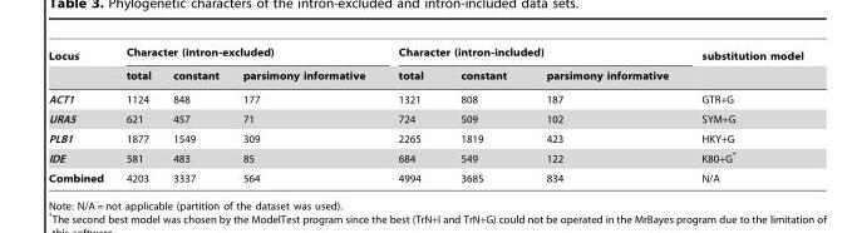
<table><thead><tr><td rowspan="2">Locus</td><td colspan="3">Character (intron-excluded)</td><td colspan="3">Character (intron-included)</td><td rowspan="2">substitution model</td></tr><tr><td>total</td><td>constant</td><td>parsimony informative</td><td>total</td><td>constant</td><td>parsimony informative</td></tr></thead><tbody><tr><td>ACT1</td><td>1124</td><td>848</td><td>177</td><td>1321</td><td>808</td><td>187</td><td>GTR+G</td></tr><tr><td>URA5</td><td>621</td><td>457</td><td>71</td><td>724</td><td>509</td><td>102</td><td>SYM+G</td></tr><tr><td>PLB1</td><td>1877</td><td>1549</td><td>309</td><td>2265</td><td>1819</td><td>423</td><td>HKY+G</td></tr><tr><td>IDE</td><td>581</td><td>483</td><td>85</td><td>684</td><td>549</td><td>122</td><td>K80+G*</td></tr><tr><td>Combined</td><td>4203</td><td>3337</td><td>564</td><td>4994</td><td>3685</td><td>834</td><td>N/A</td></tr></tbody></table>